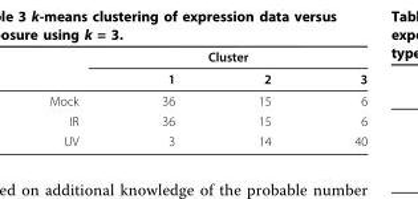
<table><thead><tr><td rowspan="2"></td><td colspan="3">Cluster</td></tr><tr><td>1</td><td>2</td><td>3</td></tr></thead><tbody><tr><td>Mock</td><td>36</td><td>15</td><td>6</td></tr><tr><td>IR</td><td>36</td><td>15</td><td>6</td></tr><tr><td>UV</td><td>3</td><td>14</td><td>40</td></tr></tbody></table>